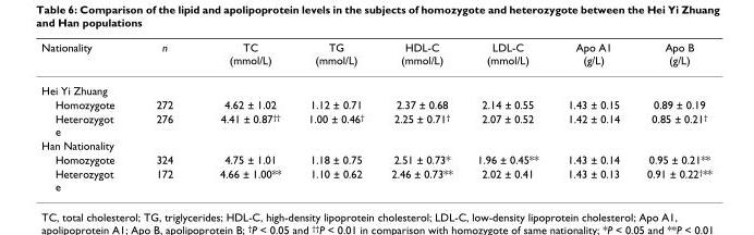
<table><thead><tr><td>Nationality</td><td>n</td><td>TC (mmol/L)</td><td>TG (mmol/L)</td><td>HDL-C (mmol/L)</td><td>LDL-C (mmol/L)</td><td>Apo A1 (g/L)</td><td>Apo B (g/L)</td></tr></thead><tbody><tr><td colspan="8">Hei Yi Zhuang</td></tr><tr><td>Homozygote</td><td>272</td><td>4.62 ± 1.02</td><td>1.12 ± 0.71</td><td>2.37 ± 0.68</td><td>2.14 ± 0.55</td><td>1.43 ± 0.15</td><td>0.89 ± 0.19</td></tr><tr><td>Heterozygot e</td><td>276</td><td>4.41 ± 0.87<sup>††</sup></td><td>1.00 ± 0.46<sup>†</sup></td><td>2.25 ± 0.71<sup>†</sup></td><td>2.07 ± 0.52</td><td>1.42 ± 0.14</td><td>0.85 ± 0.21<sup>†</sup></td></tr><tr><td colspan="8">Han Nationality</td></tr><tr><td>Homozygote</td><td>324</td><td>4.75 ± 1.01</td><td>1.18 ± 0.75</td><td>2.51 ± 0.73*</td><td>1.96 ± 0.45**</td><td>1.43 ± 0.14</td><td>0.95 ± 0.21**</td></tr><tr><td>Heterozygot e</td><td>172</td><td>4.66 ± 1.00**</td><td>1.10 ± 0.62</td><td>2.46 ± 0.73**</td><td>2.02 ± 0.41</td><td>1.43 ± 0.13</td><td>0.91 ± 0.22<sup>†</sup>**</td></tr></tbody></table>